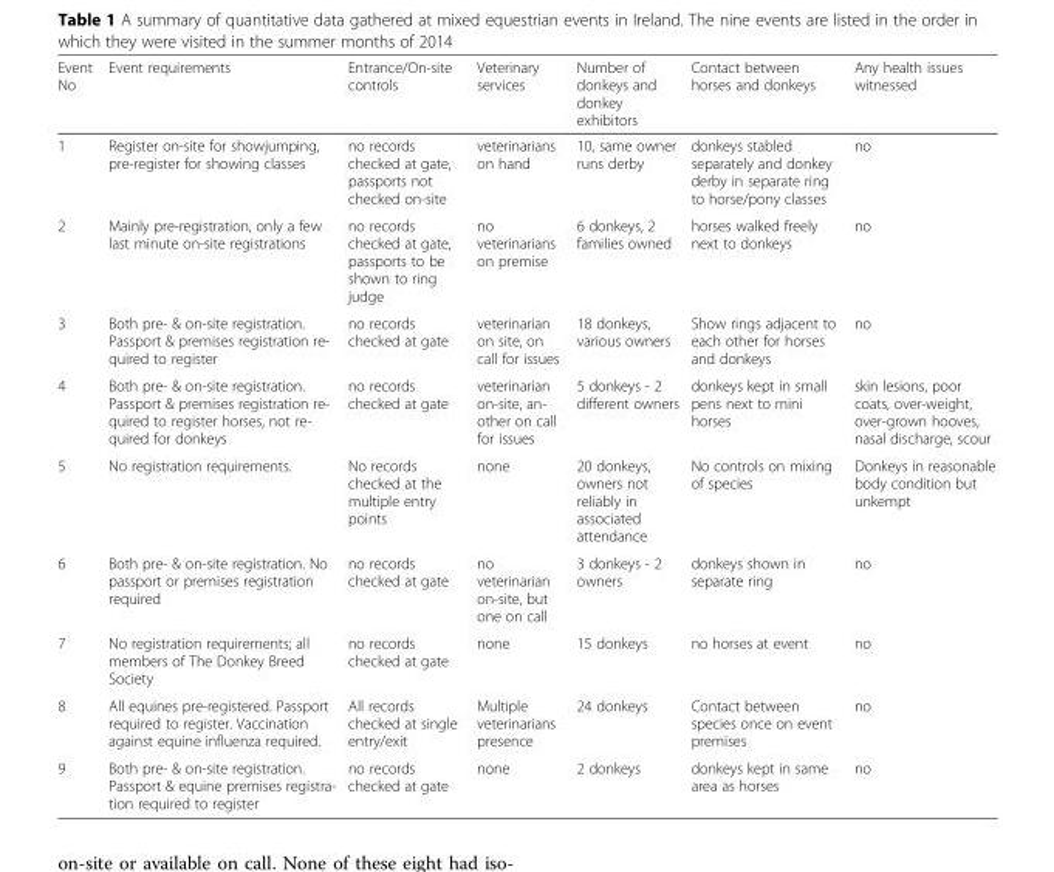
<table><thead><tr><td>Event No</td><td>Event requirements</td><td>Entrance/On-site controls</td><td>Veterinary services</td><td>Number of donkeys and donkey exhibitors</td><td>Contact between horses and donkeys</td><td>Any health issues witnessed</td></tr></thead><tbody><tr><td>1</td><td>Register on-site for showjumping, pre-register for showing classes</td><td>no records checked at gate, passports not checked on-site</td><td>veterinarians on hand</td><td>10, same owner runs derby</td><td>donkeys stabled separately and donkey derby in separate ring to horse/pony classes</td><td>no</td></tr><tr><td>2</td><td>Mainly pre-registration, only a few last minute on-site registrations</td><td>no records checked at gate, passports to be shown to ring judge</td><td>no veterinarians on premise</td><td>6 donkeys, 2 families owned</td><td>horses walked freely next to donkeys</td><td>no</td></tr><tr><td>3</td><td>Both pre- &amp; on-site registration. Passport &amp; premises registration re- quired to register</td><td>no records checked at gate</td><td>veterinarian on site, on call for issues</td><td>18 donkeys, various owners</td><td>Show rings adjacent to each other for horses and donkeys</td><td>no</td></tr><tr><td>4</td><td>Both pre- &amp; on-site registration. Passport &amp; premises registration re- quired to register horses, not re- quired for donkeys</td><td>no records checked at gate</td><td>veterinarian on-site, an- other on call for issues</td><td>5 donkeys - 2 different owners</td><td>donkeys kept in small pens next to mini horses</td><td>skin lesions, poor coats, over-weight, over-grown hooves, nasal discharge, scour</td></tr><tr><td>5</td><td>No registration requirements.</td><td>No records checked at the multiple entry points</td><td>none</td><td>20 donkeys, owners not reliably in associated attendance</td><td>No controls on mixing of species</td><td>Donkeys in reasonable body condition but unkempt</td></tr><tr><td>6</td><td>Both pre- &amp; on-site registration. No passport or premises registration required</td><td>no records checked at gate</td><td>no veterinarian on-site, but one on call</td><td>3 donkeys - 2 owners</td><td>donkeys shown in separate ring</td><td>no</td></tr><tr><td>7</td><td>No registration requirements; all members of The Donkey Breed Society</td><td>no records checked at gate</td><td>none</td><td>15 donkeys</td><td>no horses at event</td><td>no</td></tr><tr><td>8</td><td>All equines pre-registered. Passport required to register. Vaccination against equine influenza required.</td><td>All records checked at single entry/exit</td><td>Multiple veterinarians presence</td><td>24 donkeys</td><td>Contact between species once on event premises</td><td>no</td></tr><tr><td>9</td><td>Both pre- &amp; on-site registration. Passport &amp; equine premises registra- tion required to register</td><td>no records checked at gate</td><td>none</td><td>2 donkeys</td><td>donkeys kept in same area as horses</td><td>no</td></tr></tbody></table>